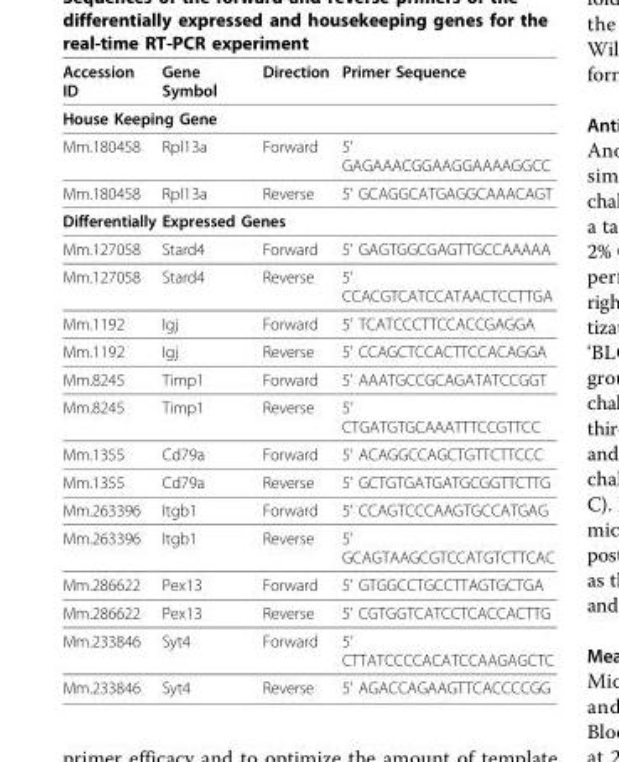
<table><thead><tr><td>Accession ID</td><td>Gene Symbol</td><td>Direction</td><td>Primer Sequence</td></tr></thead><tbody><tr><td colspan="4">House Keeping Gene</td></tr><tr><td>Mm.180458</td><td>Rpl13a</td><td>Forward</td><td>5’ GAGAAACGGAAGGAAAAGGCC</td></tr><tr><td>Mm.180458</td><td>Rpl13a</td><td>Reverse</td><td>5’ GCAGGCATGAGGCAAACAGT</td></tr><tr><td colspan="4">Differentially Expressed Genes</td></tr><tr><td>Mm.127058</td><td>Stard4</td><td>Forward</td><td>5’ GAGTGGCGAGTTGCCAAAAA</td></tr><tr><td>Mm.127058</td><td>Stard4</td><td>Reverse</td><td>5’ CCACGTCATCCATAACTCCTTGA</td></tr><tr><td>Mm.1192</td><td>Igj</td><td>Forward</td><td>5’ TCATCCCTTCCACCGAGGA</td></tr><tr><td>Mm.1192</td><td>Igj</td><td>Reverse</td><td>5’ CCAGCTCCACTTCCACAGGA</td></tr><tr><td>Mm.8245</td><td>Timp1</td><td>Forward</td><td>5’ AAATGCCGCAGATATCCGGT</td></tr><tr><td>Mm.8245</td><td>Timp1</td><td>Reverse</td><td>5’ CTGATGTGCAAATTTCCGTTCC</td></tr><tr><td>Mm.1355</td><td>Cd79a</td><td>Forward</td><td>5’ ACAGGCCAGCTGTTCTTCCC</td></tr><tr><td>Mm.1355</td><td>Cd79a</td><td>Reverse</td><td>5’ GCTGTGATGATGCGGTTCTTG</td></tr><tr><td>Mm.263396</td><td>Itgb1</td><td>Forward</td><td>5’ CCAGTCCCAAGTGCCATGAG</td></tr><tr><td>Mm.263396</td><td>Itgb1</td><td>Reverse</td><td>5’ GCAGTAAGCGTCCATGTCTTCAC</td></tr><tr><td>Mm.286622</td><td>Pex13</td><td>Forward</td><td>5’ GTGGCCTGCCTTAGTGCTGA</td></tr><tr><td>Mm.286622</td><td>Pex13</td><td>Reverse</td><td>5’ CGTGGTCATCCTCACCACTTG</td></tr><tr><td>Mm.233846</td><td>Syt4</td><td>Forward</td><td>5’ CTTATCCCCACATCCAAGAGCTC</td></tr><tr><td>Mm.233846</td><td>Syt4</td><td>Reverse</td><td>5’ AGACCAGAAGTTCACCCCGG</td></tr></tbody></table>